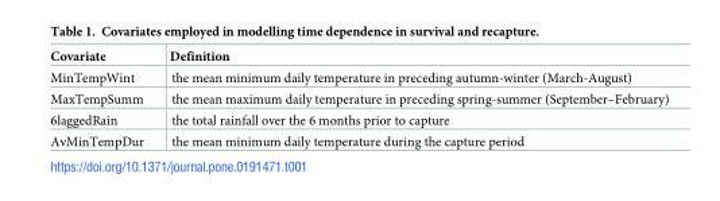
<table><thead><tr><td>Covariate</td><td>Definition</td></tr></thead><tbody><tr><td>MinTempWint</td><td>the mean minimum daily temperature in preceding autumn-winter (March-August)</td></tr><tr><td>MaxTempSumm</td><td>the mean maximum daily temperature in preceding spring-summer (September–February)</td></tr><tr><td>6laggedRain</td><td>the total rainfall over the 6 months prior to capture</td></tr><tr><td>AvMinTempDur</td><td>the mean minimum daily temperature during the capture period</td></tr></tbody></table>